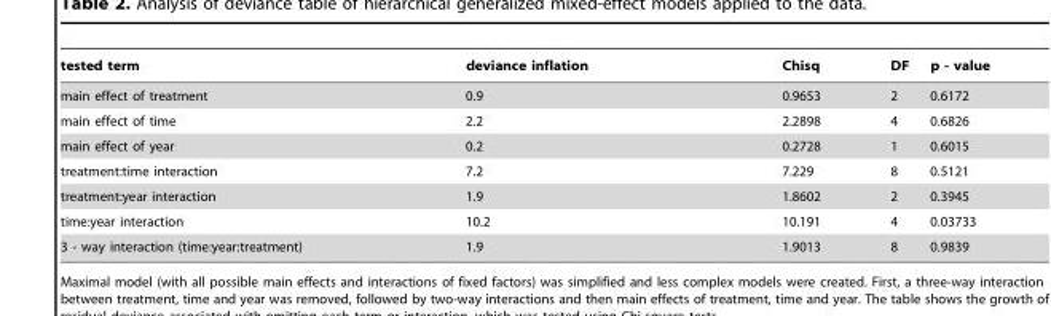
<table><thead><tr><td>tested term</td><td>deviance inflation</td><td>Chisq</td><td>DF</td><td>p - value</td></tr></thead><tbody><tr><td>main effect of treatment</td><td>0.9</td><td>0.9653</td><td>2</td><td>0.6172</td></tr><tr><td>main effect of time</td><td>2.2</td><td>2.2898</td><td>4</td><td>0.6826</td></tr><tr><td>main effect of year</td><td>0.2</td><td>0.2728</td><td>1</td><td>0.6015</td></tr><tr><td>treatment:time interaction</td><td>7.2</td><td>7.229</td><td>8</td><td>0.5121</td></tr><tr><td>treatment:year interaction</td><td>1.9</td><td>1.8602</td><td>2</td><td>0.3945</td></tr><tr><td>time:year interaction</td><td>10.2</td><td>10.191</td><td>4</td><td>0.03733</td></tr><tr><td>3 - way interaction (time:year:treatment)</td><td>1.9</td><td>1.9013</td><td>8</td><td>0.9839</td></tr></tbody></table>